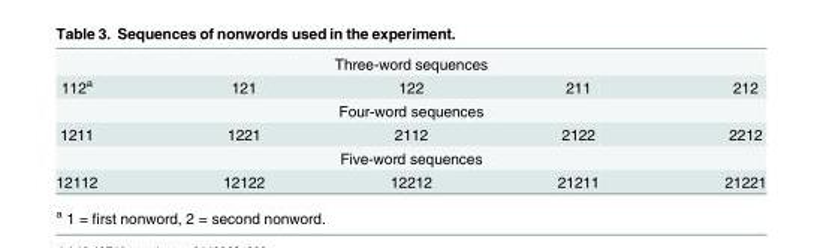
<table><tbody><tr><td colspan="5">Three-word sequences</td></tr><tr><td>112<sup>a</sup></td><td>121</td><td>122</td><td>211</td><td>212</td></tr><tr><td colspan="5">Four-word sequences</td></tr><tr><td>1211</td><td>1221</td><td>2112</td><td>2122</td><td>2212</td></tr><tr><td colspan="5">Five-word sequences</td></tr><tr><td>12112</td><td>12122</td><td>12212</td><td>21211</td><td>21221</td></tr></tbody></table>